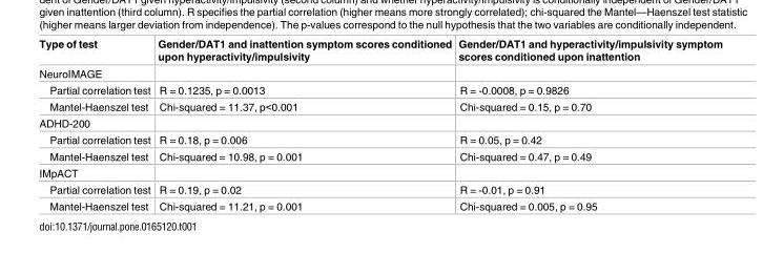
<table><thead><tr><td>Type of test</td><td>Gender/DAT1 and inattention symptom scores conditioned upon hyperactivity/impulsivity</td><td>Gender/DAT1 and hyperactivity/impulsivity symptom scores conditioned upon inattention</td></tr></thead><tbody><tr><td colspan="3">NeuroIMAGE</td></tr><tr><td>Partial correlation test</td><td>R = 0.1235, p = 0.0013</td><td>R = -0.0008, p = 0.9826</td></tr><tr><td>Mantel-Haenszel test</td><td>Chi-squared = 11.37, p&lt;0.001</td><td>Chi-squared = 0.15, p = 0.70</td></tr><tr><td colspan="3">ADHD-200</td></tr><tr><td>Partial correlation test</td><td>R = 0.18, p = 0.006</td><td>R = 0.05, p = 0.42</td></tr><tr><td>Mantel-Haenszel test</td><td>Chi-squared = 10.98, p = 0.001</td><td>Chi-squared = 0.47, p = 0.49</td></tr><tr><td colspan="3">IMpACT</td></tr><tr><td>Partial correlation test</td><td>R = 0.19, p = 0.02</td><td>R = -0.01, p = 0.91</td></tr><tr><td>Mantel-Haenszel test</td><td>Chi-squared = 11.21, p = 0.001</td><td>Chi-squared = 0.005, p = 0.95</td></tr></tbody></table>